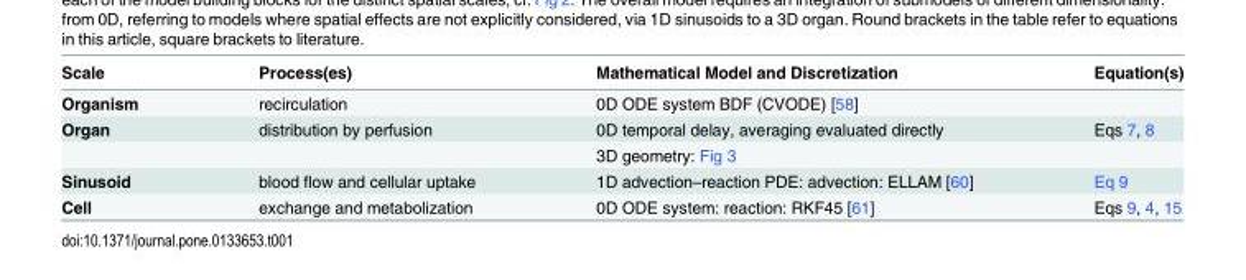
<table><thead><tr><td>Scale</td><td>Process(es)</td><td>Mathematical Model and Discretization</td><td>Equation(s)</td></tr></thead><tbody><tr><td>Organism</td><td>recirculation</td><td>0D ODE system BDF (CVODE) [58]</td><td></td></tr><tr><td rowspan="2">Organ</td><td>distribution by perfusion</td><td>0D temporal delay, averaging evaluated directly</td><td>Eqs 7, 8</td></tr><tr><td></td><td>3D geometry: Fig 3</td><td></td></tr><tr><td>Sinusoid</td><td>blood flow and cellular uptake</td><td>1D advection–reaction PDE: advection: ELLAM [60]</td><td>Eq 9</td></tr><tr><td>Cell</td><td>exchange and metabolization</td><td>0D ODE system: reaction: RKF45 [61]</td><td>Eqs 9, 4, 15</td></tr></tbody></table>